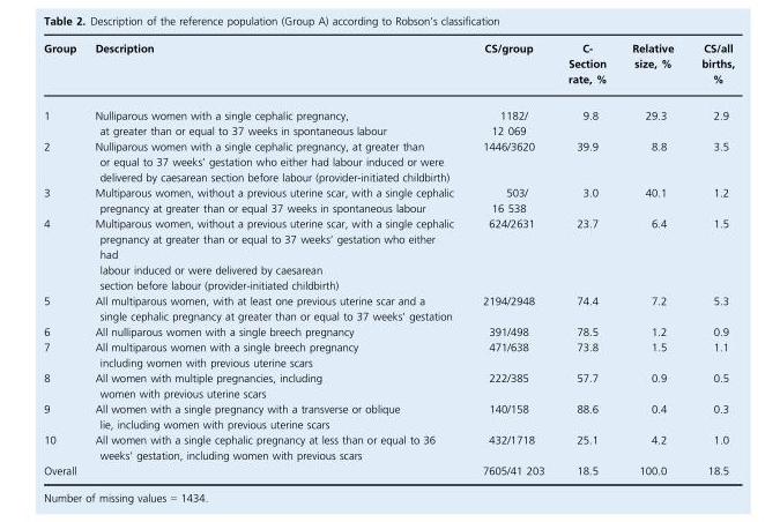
<table><thead><tr><td>Group</td><td>Description</td><td>CS/group</td><td>C- Section rate, %</td><td>Relative size, %</td><td>CS/all births, %</td></tr></thead><tbody><tr><td>1</td><td>Nulliparous women with a single cephalic pregnancy, at greater than or equal to 37 weeks in spontaneous labour</td><td>1182/ 12 069</td><td>9.8</td><td>29.3</td><td>2.9</td></tr><tr><td>2</td><td>Nulliparous women with a single cephalic pregnancy, at greater than or equal to 37 weeks’ gestation who either had labour induced or were delivered by caesarean section before labour (provider-initiated childbirth)</td><td>1446/3620</td><td>39.9</td><td>8.8</td><td>3.5</td></tr><tr><td>3</td><td>Multiparous women, without a previous uterine scar, with a single cephalic pregnancy at greater than or equal 37 weeks in spontaneous labour</td><td>503/ 16 538</td><td>3.0</td><td>40.1</td><td>1.2</td></tr><tr><td>4</td><td>Multiparous women, without a previous uterine scar, with a single cephalic pregnancy at greater than or equal to 37 weeks’ gestation who either had labour induced or were delivered by caesarean section before labour (provider-initiated childbirth)</td><td>624/2631</td><td>23.7</td><td>6.4</td><td>1.5</td></tr><tr><td>5</td><td>All multiparous women, with at least one previous uterine scar and a single cephalic pregnancy at greater than or equal to 37 weeks’ gestation</td><td>2194/2948</td><td>74.4</td><td>7.2</td><td>5.3</td></tr><tr><td>6</td><td>All nulliparous women with a single breech pregnancy</td><td>391/498</td><td>78.5</td><td>1.2</td><td>0.9</td></tr><tr><td>7</td><td>All multiparous women with a single breech pregnancy including women with previous uterine scars</td><td>471/638</td><td>73.8</td><td>1.5</td><td>1.1</td></tr><tr><td>8</td><td>All women with multiple pregnancies, including women with previous uterine scars</td><td>222/385</td><td>57.7</td><td>0.9</td><td>0.5</td></tr><tr><td>9</td><td>All women with a single pregnancy with a transverse or oblique lie, including women with previous uterine scars</td><td>140/158</td><td>88.6</td><td>0.4</td><td>0.3</td></tr><tr><td>10</td><td>All women with a single cephalic pregnancy at less than or equal to 36 weeks’ gestation, including women with previous scars</td><td>432/1718</td><td>25.1</td><td>4.2</td><td>1.0</td></tr><tr><td colspan="2">Overall</td><td>7605/41 203</td><td>18.5</td><td>100.0</td><td>18.5</td></tr></tbody></table>